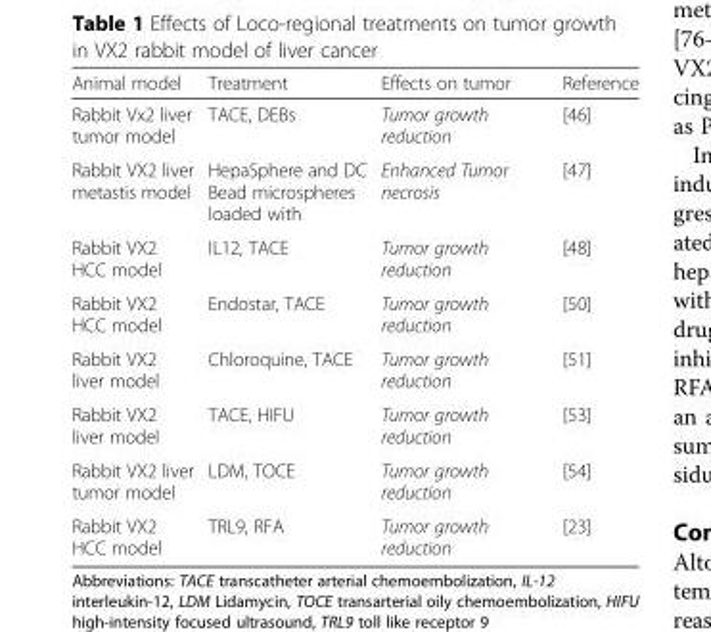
<table><thead><tr><td>Animal model</td><td>Treatment</td><td>Effects on tumor</td><td>Reference</td></tr></thead><tbody><tr><td>Rabbit Vx2 liver tumor model</td><td>TACE, DEBs</td><td>Tumor growth reduction</td><td>[46]</td></tr><tr><td>Rabbit VX2 liver metastis model</td><td>HepaSphere and DC Bead microspheres loaded with</td><td>Enhanced Tumor necrosis</td><td>[47]</td></tr><tr><td>Rabbit VX2 HCC model</td><td>IL12, TACE</td><td>Tumor growth reduction</td><td>[48]</td></tr><tr><td>Rabbit VX2 HCC model</td><td>Endostar, TACE</td><td>Tumor growth reduction</td><td>[50]</td></tr><tr><td>Rabbit VX2 liver model</td><td>Chloroquine, TACE</td><td>Tumor growth reduction</td><td>[51]</td></tr><tr><td>Rabbit VX2 liver model</td><td>TACE, HIFU</td><td>Tumor growth reduction</td><td>[53]</td></tr><tr><td>Rabbit VX2 liver tumor model</td><td>LDM, TOCE</td><td>Tumor growth reduction</td><td>[54]</td></tr><tr><td>Rabbit VX2 HCC model</td><td>TRL9, RFA</td><td>Tumor growth reduction</td><td>[23]</td></tr></tbody></table>